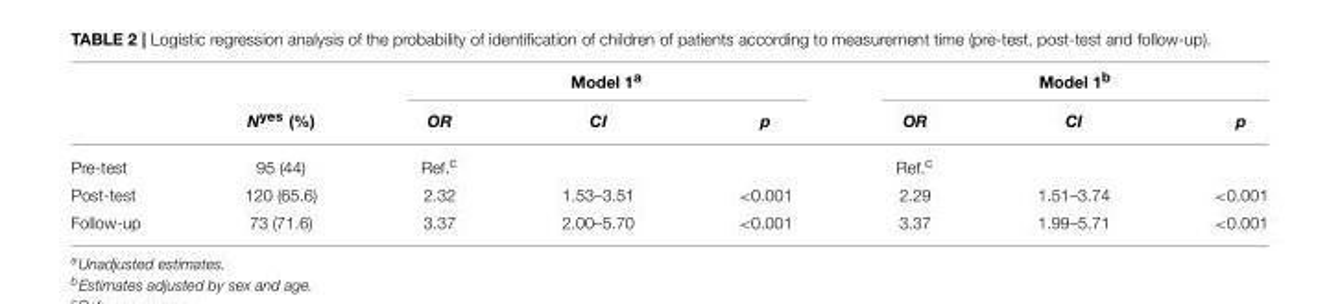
<table><thead><tr><td rowspan="2"></td><td rowspan="2">N<sup>yes</sup> (%)</td><td colspan="3">Model 1<sup>a</sup></td><td colspan="3">Model 1<sup>b</sup></td></tr><tr><td>OR</td><td>CI</td><td>p</td><td>OR</td><td>CI</td><td>p</td></tr></thead><tbody><tr><td>Pre-test</td><td>95 (44)</td><td>Ref.<sup>c</sup></td><td></td><td></td><td>Ref.<sup>c</sup></td><td></td><td></td></tr><tr><td>Post-test</td><td>120 (65.6)</td><td>2.32</td><td>1.53–3.51</td><td>&lt;0.001</td><td>2.29</td><td>1.51–3.74</td><td>&lt;0.001</td></tr><tr><td>Follow-up</td><td>73 (71.6)</td><td>3.37</td><td>2.00–5.70</td><td>&lt;0.001</td><td>3.37</td><td>1.99–5.71</td><td>&lt;0.001</td></tr></tbody></table>